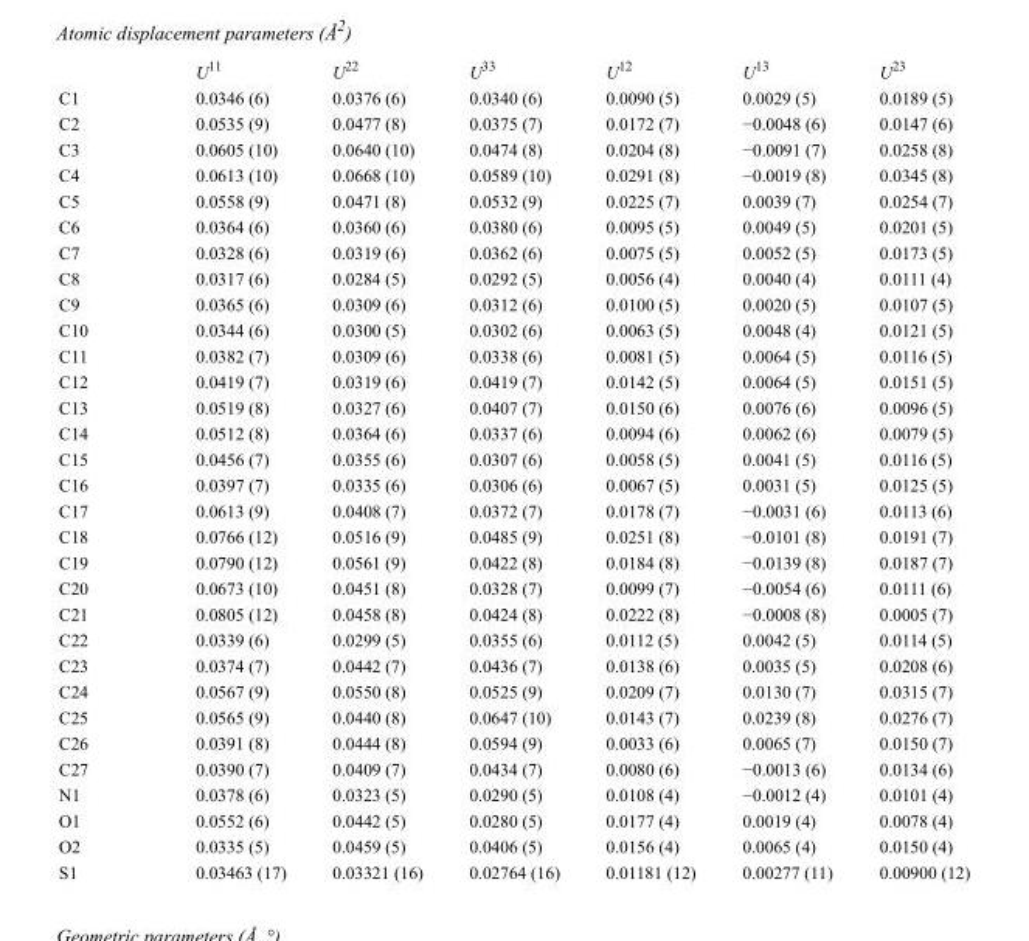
<table><thead><tr><td></td><td>U<sup>11</sup></td><td>U<sup>22</sup></td><td>U<sup>33</sup></td><td>U<sup>12</sup></td><td>U<sup>13</sup></td><td>U<sup>23</sup></td></tr></thead><tbody><tr><td>C1</td><td>0.0346 (6)</td><td>0.0376 (6)</td><td>0.0340 (6)</td><td>0.0090 (5)</td><td>0.0029 (5)</td><td>0.0189 (5)</td></tr><tr><td>C2</td><td>0.0535 (9)</td><td>0.0477 (8)</td><td>0.0375 (7)</td><td>0.0172 (7)</td><td>−0.0048 (6)</td><td>0.0147 (6)</td></tr><tr><td>C3</td><td>0.0605 (10)</td><td>0.0640 (10)</td><td>0.0474 (8)</td><td>0.0204 (8)</td><td>−0.0091 (7)</td><td>0.0258 (8)</td></tr><tr><td>C4</td><td>0.0613 (10)</td><td>0.0668 (10)</td><td>0.0589 (10)</td><td>0.0291 (8)</td><td>−0.0019 (8)</td><td>0.0345 (8)</td></tr><tr><td>C5</td><td>0.0558 (9)</td><td>0.0471 (8)</td><td>0.0532 (9)</td><td>0.0225 (7)</td><td>0.0039 (7)</td><td>0.0254 (7)</td></tr><tr><td>C6</td><td>0.0364 (6)</td><td>0.0360 (6)</td><td>0.0380 (6)</td><td>0.0095 (5)</td><td>0.0049 (5)</td><td>0.0201 (5)</td></tr><tr><td>C7</td><td>0.0328 (6)</td><td>0.0319 (6)</td><td>0.0362 (6)</td><td>0.0075 (5)</td><td>0.0052 (5)</td><td>0.0173 (5)</td></tr><tr><td>C8</td><td>0.0317 (6)</td><td>0.0284 (5)</td><td>0.0292 (5)</td><td>0.0056 (4)</td><td>0.0040 (4)</td><td>0.0111 (4)</td></tr><tr><td>C9</td><td>0.0365 (6)</td><td>0.0309 (6)</td><td>0.0312 (6)</td><td>0.0100 (5)</td><td>0.0020 (5)</td><td>0.0107 (5)</td></tr><tr><td>C10</td><td>0.0344 (6)</td><td>0.0300 (5)</td><td>0.0302 (6)</td><td>0.0063 (5)</td><td>0.0048 (4)</td><td>0.0121 (5)</td></tr><tr><td>C11</td><td>0.0382 (7)</td><td>0.0309 (6)</td><td>0.0338 (6)</td><td>0.0081 (5)</td><td>0.0064 (5)</td><td>0.0116 (5)</td></tr><tr><td>C12</td><td>0.0419 (7)</td><td>0.0319 (6)</td><td>0.0419 (7)</td><td>0.0142 (5)</td><td>0.0064 (5)</td><td>0.0151 (5)</td></tr><tr><td>C13</td><td>0.0519 (8)</td><td>0.0327 (6)</td><td>0.0407 (7)</td><td>0.0150 (6)</td><td>0.0076 (6)</td><td>0.0096 (5)</td></tr><tr><td>C14</td><td>0.0512 (8)</td><td>0.0364 (6)</td><td>0.0337 (6)</td><td>0.0094 (6)</td><td>0.0062 (6)</td><td>0.0079 (5)</td></tr><tr><td>C15</td><td>0.0456 (7)</td><td>0.0355 (6)</td><td>0.0307 (6)</td><td>0.0058 (5)</td><td>0.0041 (5)</td><td>0.0116 (5)</td></tr><tr><td>C16</td><td>0.0397 (7)</td><td>0.0335 (6)</td><td>0.0306 (6)</td><td>0.0067 (5)</td><td>0.0031 (5)</td><td>0.0125 (5)</td></tr><tr><td>C17</td><td>0.0613 (9)</td><td>0.0408 (7)</td><td>0.0372 (7)</td><td>0.0178 (7)</td><td>−0.0031 (6)</td><td>0.0113 (6)</td></tr><tr><td>C18</td><td>0.0766 (12)</td><td>0.0516 (9)</td><td>0.0485 (9)</td><td>0.0251 (8)</td><td>−0.0101 (8)</td><td>0.0191 (7)</td></tr><tr><td>C19</td><td>0.0790 (12)</td><td>0.0561 (9)</td><td>0.0422 (8)</td><td>0.0184 (8)</td><td>−0.0139 (8)</td><td>0.0187 (7)</td></tr><tr><td>C20</td><td>0.0673 (10)</td><td>0.0451 (8)</td><td>0.0328 (7)</td><td>0.0099 (7)</td><td>−0.0054 (6)</td><td>0.0111 (6)</td></tr><tr><td>C21</td><td>0.0805 (12)</td><td>0.0458 (8)</td><td>0.0424 (8)</td><td>0.0222 (8)</td><td>−0.0008 (8)</td><td>0.0005 (7)</td></tr><tr><td>C22</td><td>0.0339 (6)</td><td>0.0299 (5)</td><td>0.0355 (6)</td><td>0.0112 (5)</td><td>0.0042 (5)</td><td>0.0114 (5)</td></tr><tr><td>C23</td><td>0.0374 (7)</td><td>0.0442 (7)</td><td>0.0436 (7)</td><td>0.0138 (6)</td><td>0.0035 (5)</td><td>0.0208 (6)</td></tr><tr><td>C24</td><td>0.0567 (9)</td><td>0.0550 (8)</td><td>0.0525 (9)</td><td>0.0209 (7)</td><td>0.0130 (7)</td><td>0.0315 (7)</td></tr><tr><td>C25</td><td>0.0565 (9)</td><td>0.0440 (8)</td><td>0.0647 (10)</td><td>0.0143 (7)</td><td>0.0239 (8)</td><td>0.0276 (7)</td></tr><tr><td>C26</td><td>0.0391 (8)</td><td>0.0444 (8)</td><td>0.0594 (9)</td><td>0.0033 (6)</td><td>0.0065 (7)</td><td>0.0150 (7)</td></tr><tr><td>C27</td><td>0.0390 (7)</td><td>0.0409 (7)</td><td>0.0434 (7)</td><td>0.0080 (6)</td><td>−0.0013 (6)</td><td>0.0134 (6)</td></tr><tr><td>N1</td><td>0.0378 (6)</td><td>0.0323 (5)</td><td>0.0290 (5)</td><td>0.0108 (4)</td><td>−0.0012 (4)</td><td>0.0101 (4)</td></tr><tr><td>O1</td><td>0.0552 (6)</td><td>0.0442 (5)</td><td>0.0280 (5)</td><td>0.0177 (4)</td><td>0.0019 (4)</td><td>0.0078 (4)</td></tr><tr><td>O2</td><td>0.0335 (5)</td><td>0.0459 (5)</td><td>0.0406 (5)</td><td>0.0156 (4)</td><td>0.0065 (4)</td><td>0.0150 (4)</td></tr><tr><td>S1</td><td>0.03463 (17)</td><td>0.03321 (16)</td><td>0.02764 (16)</td><td>0.01181 (12)</td><td>0.00277 (11)</td><td>0.00900 (12)</td></tr></tbody></table>